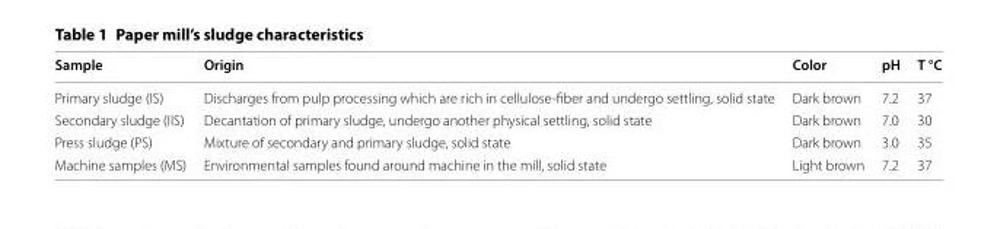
<table><thead><tr><td>Sample</td><td>Origin</td><td>Color</td><td>pH</td><td>T °C</td></tr></thead><tbody><tr><td>Primary sludge (IS)</td><td>Discharges from pulp processing which are rich in cellulose‑fiber and undergo settling, solid state</td><td>Dark brown</td><td>7.2</td><td>37</td></tr><tr><td>Secondary sludge (IIS)</td><td>Decantation of primary sludge, undergo another physical settling, solid state</td><td>Dark brown</td><td>7.0</td><td>30</td></tr><tr><td>Press sludge (PS)</td><td>Mixture of secondary and primary sludge, solid state</td><td>Dark brown</td><td>3.0</td><td>35</td></tr><tr><td>Machine samples (MS)</td><td>Environmental samples found around machine in the mill, solid state</td><td>Light brown</td><td>7.2</td><td>37</td></tr></tbody></table>